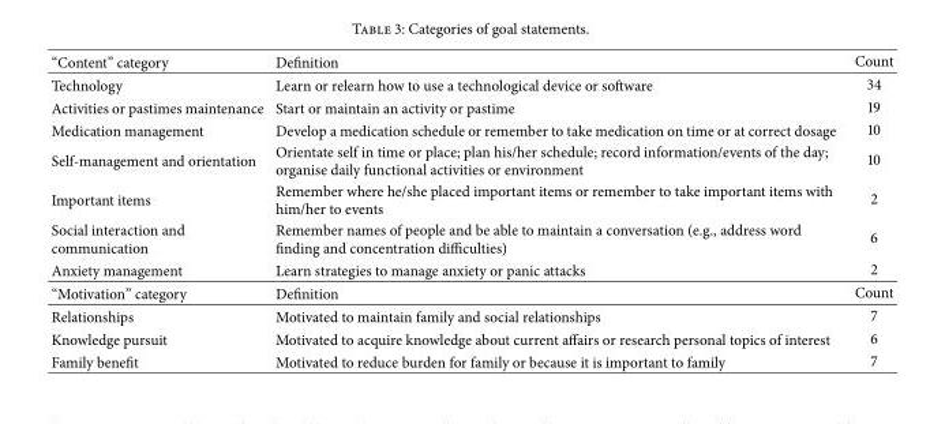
<table><thead><tr><td>“Content” category</td><td>Definition</td><td>Count</td></tr></thead><tbody><tr><td>Technology</td><td>Learn or relearn how to use a technological device or software</td><td>34</td></tr><tr><td>Activities or pastimes maintenance</td><td>Start or maintain an activity or pastime</td><td>19</td></tr><tr><td>Medication management</td><td>Develop a medication schedule or remember to take medication on time or at correct dosage</td><td>10</td></tr><tr><td>Self-management and orientation</td><td>Orientate self in time or place; plan his/her schedule; record information/events of the day; organise daily functional activities or environment</td><td>10</td></tr><tr><td>Important items</td><td>Remember where he/she placed important items or remember to take important items with him/her to events</td><td>2</td></tr><tr><td>Social interaction and communication</td><td>Remember names of people and be able to maintain a conversation (e.g., address word finding and concentration difficulties)</td><td>6</td></tr><tr><td>Anxiety management</td><td>Learn strategies to manage anxiety or panic attacks</td><td>2</td></tr><tr><td>“Motivation” category</td><td>Definition</td><td>Count</td></tr><tr><td>Relationships</td><td>Motivated to maintain family and social relationships</td><td>7</td></tr><tr><td>Knowledge pursuit</td><td>Motivated to acquire knowledge about current affairs or research personal topics of interest</td><td>6</td></tr><tr><td>Family benefit</td><td>Motivated to reduce burden for family or because it is important to family</td><td>7</td></tr></tbody></table>